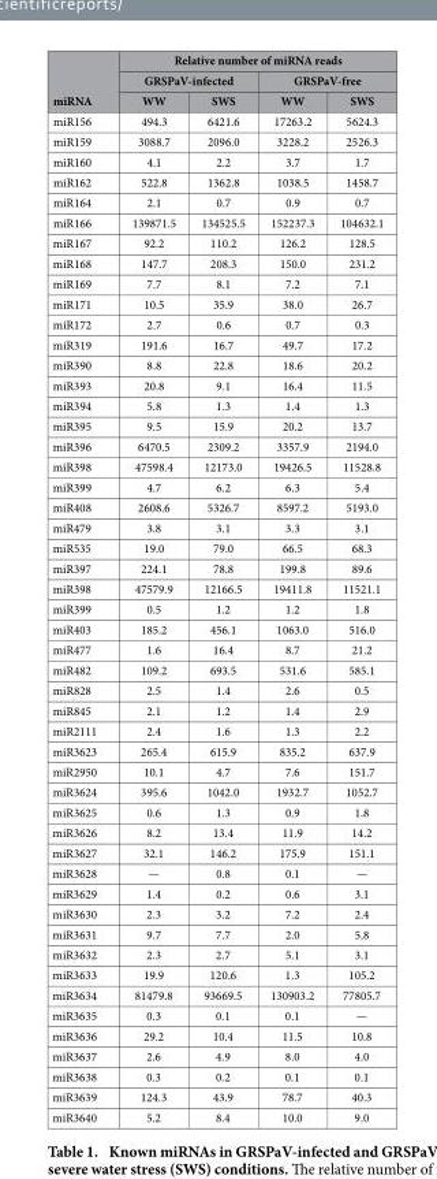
<table><thead><tr><td rowspan="3">miRNA</td><td colspan="4">Relative number of miRNA reads</td></tr><tr><td colspan="2">GRSPaV-infected</td><td colspan="2">GRSPaV-free</td></tr><tr><td>WW</td><td>SWS</td><td>WW</td><td>SWS</td></tr></thead><tbody><tr><td>miR156</td><td>494.3</td><td>6421.6</td><td>17263.2</td><td>5624.3</td></tr><tr><td>miR159</td><td>3088.7</td><td>2096.0</td><td>3228.2</td><td>2526.3</td></tr><tr><td>miR160</td><td>4.1</td><td>2.2</td><td>3.7</td><td>1.7</td></tr><tr><td>miR162</td><td>522.8</td><td>1362.8</td><td>1038.5</td><td>1458.7</td></tr><tr><td>miR164</td><td>2.1</td><td>0.7</td><td>0.9</td><td>0.7</td></tr><tr><td>miR166</td><td>139871.5</td><td>134525.5</td><td>152237.3</td><td>104632.1</td></tr><tr><td>miR167</td><td>92.2</td><td>110.2</td><td>126.2</td><td>128.5</td></tr><tr><td>miR168</td><td>147.7</td><td>208.3</td><td>150.0</td><td>231.2</td></tr><tr><td>miR169</td><td>7.7</td><td>8.1</td><td>7.2</td><td>7.1</td></tr><tr><td>miR171</td><td>10.5</td><td>35.9</td><td>38.0</td><td>26.7</td></tr><tr><td>miR172</td><td>2.7</td><td>0.6</td><td>0.7</td><td>0.3</td></tr><tr><td>miR319</td><td>191.6</td><td>16.7</td><td>49.7</td><td>17.2</td></tr><tr><td>miR390</td><td>8.8</td><td>22.8</td><td>18.6</td><td>20.2</td></tr><tr><td>miR393</td><td>20.8</td><td>9.1</td><td>16.4</td><td>11.5</td></tr><tr><td>miR394</td><td>5.8</td><td>1.3</td><td>1.4</td><td>1.3</td></tr><tr><td>miR395</td><td>9.5</td><td>15.9</td><td>20.2</td><td>13.7</td></tr><tr><td>miR396</td><td>6470.5</td><td>2309.2</td><td>3357.9</td><td>2194.0</td></tr><tr><td>miR398</td><td>47598.4</td><td>12173.0</td><td>19426.5</td><td>11528.8</td></tr><tr><td>miR399</td><td>4.7</td><td>6.2</td><td>6.3</td><td>5.4</td></tr><tr><td>miR408</td><td>2608.6</td><td>5326.7</td><td>8597.2</td><td>5193.0</td></tr><tr><td>miR479</td><td>3.8</td><td>3.1</td><td>3.3</td><td>3.1</td></tr><tr><td>miR535</td><td>19.0</td><td>79.0</td><td>66.5</td><td>68.3</td></tr><tr><td>miR397</td><td>224.1</td><td>78.8</td><td>199.8</td><td>89.6</td></tr><tr><td>miR398</td><td>47579.9</td><td>12166.5</td><td>19411.8</td><td>11521.1</td></tr><tr><td>miR399</td><td>0.5</td><td>1.2</td><td>1.2</td><td>1.8</td></tr><tr><td>miR403</td><td>185.2</td><td>456.1</td><td>1063.0</td><td>516.0</td></tr><tr><td>miR477</td><td>1.6</td><td>16.4</td><td>8.7</td><td>21.2</td></tr><tr><td>miR482</td><td>109.2</td><td>693.5</td><td>531.6</td><td>585.1</td></tr><tr><td>miR828</td><td>2.5</td><td>1.4</td><td>2.6</td><td>0.5</td></tr><tr><td>miR845</td><td>2.1</td><td>1.2</td><td>1.4</td><td>2.9</td></tr><tr><td>miR2111</td><td>2.4</td><td>1.6</td><td>1.3</td><td>2.2</td></tr><tr><td>miR3623</td><td>265.4</td><td>615.9</td><td>835.2</td><td>637.9</td></tr><tr><td>miR2950</td><td>10.1</td><td>4.7</td><td>7.6</td><td>151.7</td></tr><tr><td>miR3624</td><td>395.6</td><td>1042.0</td><td>1932.7</td><td>1052.7</td></tr><tr><td>miR3625</td><td>0.6</td><td>1.3</td><td>0.9</td><td>1.8</td></tr><tr><td>miR3626</td><td>8.2</td><td>13.4</td><td>11.9</td><td>14.2</td></tr><tr><td>miR3627</td><td>32.1</td><td>146.2</td><td>175.9</td><td>151.1</td></tr><tr><td>miR3628</td><td>—</td><td>0.8</td><td>0.1</td><td>—</td></tr><tr><td>miR3629</td><td>1.4</td><td>0.2</td><td>0.6</td><td>3.1</td></tr><tr><td>miR3630</td><td>2.3</td><td>3.2</td><td>7.2</td><td>2.4</td></tr><tr><td>miR3631</td><td>9.7</td><td>7.7</td><td>2.0</td><td>5.8</td></tr><tr><td>miR3632</td><td>2.3</td><td>2.7</td><td>5.1</td><td>3.1</td></tr><tr><td>miR3633</td><td>19.9</td><td>120.6</td><td>1.3</td><td>105.2</td></tr><tr><td>miR3634</td><td>81479.8</td><td>93669.5</td><td>130903.2</td><td>77805.7</td></tr><tr><td>miR3635</td><td>0.3</td><td>0.1</td><td>0.1</td><td>—</td></tr><tr><td>miR3636</td><td>29.2</td><td>10.4</td><td>11.5</td><td>10.8</td></tr><tr><td>miR3637</td><td>2.6</td><td>4.9</td><td>8.0</td><td>4.0</td></tr><tr><td>miR3638</td><td>0.3</td><td>0.2</td><td>0.1</td><td>0.1</td></tr><tr><td>miR3639</td><td>124.3</td><td>43.9</td><td>78.7</td><td>40.3</td></tr><tr><td>miR3640</td><td>5.2</td><td>8.4</td><td>10.0</td><td>9.0</td></tr></tbody></table>